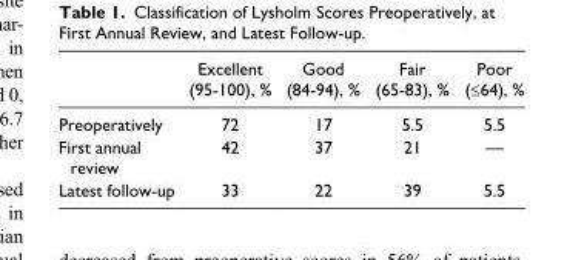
<table><thead><tr><td></td><td>Excellent (95-100), %</td><td>Good (84-94), %</td><td>Fair (65-83), %</td><td>Poor (≤64), %</td></tr></thead><tbody><tr><td>Preoperatively</td><td>72</td><td>17</td><td>5.5</td><td>5.5</td></tr><tr><td>First annual review</td><td>42</td><td>37</td><td>21</td><td>—</td></tr><tr><td>Latest follow-up</td><td>33</td><td>22</td><td>39</td><td>5.5</td></tr></tbody></table>